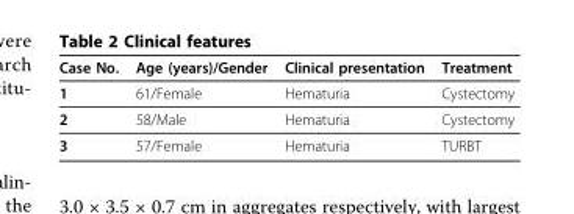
<table><thead><tr><td>Case No.</td><td>Age (years)/Gender</td><td>Clinical presentation</td><td>Treatment</td></tr></thead><tbody><tr><td>1</td><td>61/Female</td><td>Hematuria</td><td>Cystectomy</td></tr><tr><td>2</td><td>58/Male</td><td>Hematuria</td><td>Cystectomy</td></tr><tr><td>3</td><td>57/Female</td><td>Hematuria</td><td>TURBT</td></tr></tbody></table>